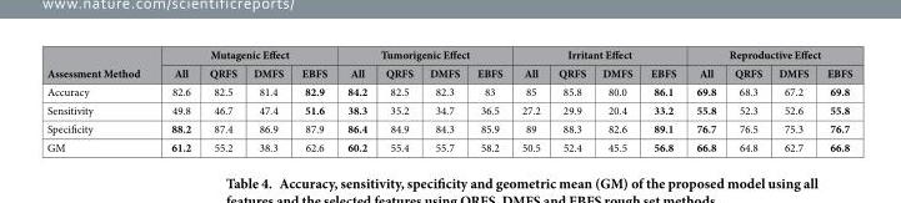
<table><thead><tr><td rowspan="2">Assessment Method</td><td colspan="4">Mutagenic Effect</td><td colspan="4">Tumorigenic Effect</td><td colspan="4">Irritant Effect</td><td colspan="4">Reproductive Effect</td></tr><tr><td>All</td><td>QRFS</td><td>DMFS</td><td>EBFS</td><td>All</td><td>QRFS</td><td>DMFS</td><td>EBFS</td><td>All</td><td>QRFS</td><td>DMFS</td><td>EBFS</td><td>All</td><td>QRFS</td><td>DMFS</td><td>EBFS</td></tr></thead><tbody><tr><td>Accuracy</td><td>82.6</td><td>82.5</td><td>81.4</td><td>82.9</td><td>84.2</td><td>82.5</td><td>82.3</td><td>83</td><td>85</td><td>85.8</td><td>80.0</td><td>86.1</td><td>69.8</td><td>68.3</td><td>67.2</td><td>69.8</td></tr><tr><td>Sensitivity</td><td>49.8</td><td>46.7</td><td>47.4</td><td>51.6</td><td>38.3</td><td>35.2</td><td>34.7</td><td>36.5</td><td>27.2</td><td>29.9</td><td>20.4</td><td>33.2</td><td>55.8</td><td>52.3</td><td>52.6</td><td>55.8</td></tr><tr><td>Specificity</td><td>88.2</td><td>87.4</td><td>86.9</td><td>87.9</td><td>86.4</td><td>84.9</td><td>84.3</td><td>85.9</td><td>89</td><td>88.3</td><td>82.6</td><td>89.1</td><td>76.7</td><td>76.5</td><td>75.3</td><td>76.7</td></tr><tr><td>GM</td><td>61.2</td><td>55.2</td><td>38.3</td><td>62.6</td><td>60.2</td><td>55.4</td><td>55.7</td><td>58.2</td><td>50.5</td><td>52.4</td><td>45.5</td><td>56.8</td><td>66.8</td><td>64.8</td><td>62.7</td><td>66.8</td></tr></tbody></table>